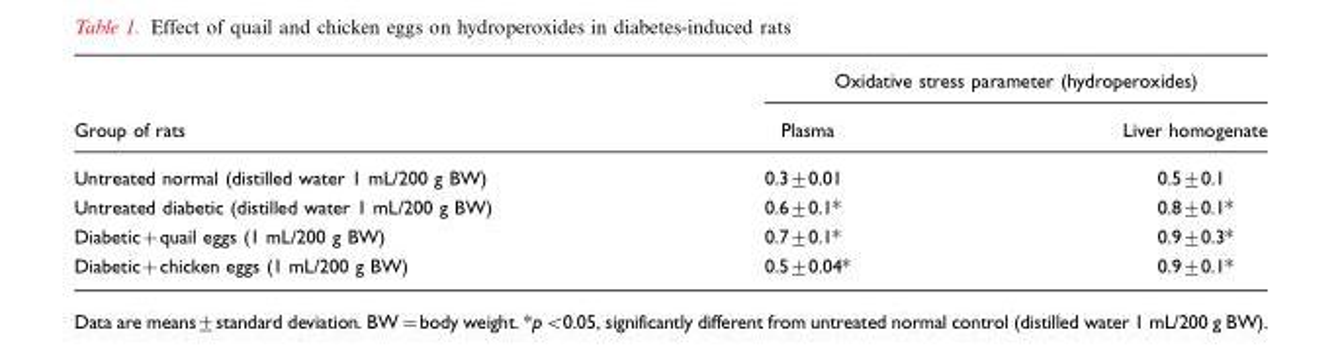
<table><thead><tr><td rowspan="2">Group of rats</td><td colspan="2">Oxidative stress parameter (hydroperoxides)</td></tr><tr><td>Plasma</td><td>Liver homogenate</td></tr></thead><tbody><tr><td>Untreated normal (distilled water 1 mL/200 g BW)</td><td>0.3±0.01</td><td>0.5±0.1</td></tr><tr><td>Untreated diabetic (distilled water 1 mL/200 g BW)</td><td>0.6±0.1*</td><td>0.8±0.1*</td></tr><tr><td>Diabetic+quail eggs (1 mL/200 g BW)</td><td>0.7±0.1*</td><td>0.9±0.3*</td></tr><tr><td>Diabetic+chicken eggs (1 mL/200 g BW)</td><td>0.5±0.04*</td><td>0.9±0.1*</td></tr></tbody></table>